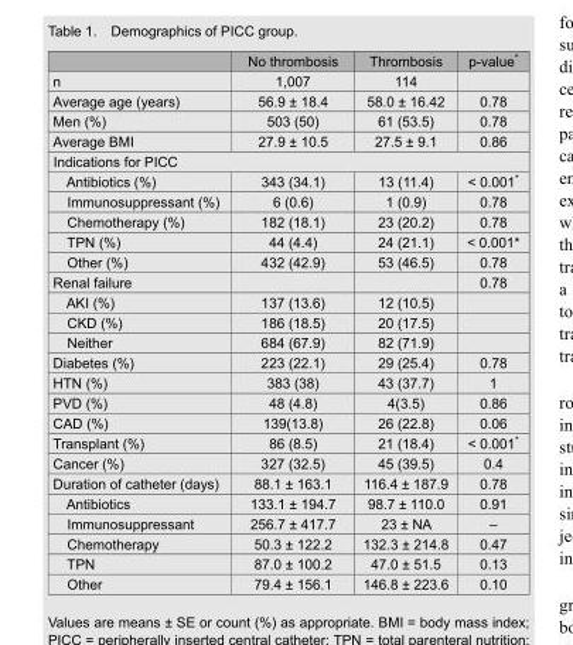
<table><thead><tr><td></td><td>No thrombosis</td><td>Thrombosis</td><td>p-value*</td></tr></thead><tbody><tr><td>n</td><td>1,007</td><td>114</td><td></td></tr><tr><td>Average age (years)</td><td>56.9 ± 18.4</td><td>58.0 ± 16.42</td><td>0.78</td></tr><tr><td>Men (%)</td><td>503 (50)</td><td>61 (53.5)</td><td>0.78</td></tr><tr><td>Average BMI</td><td>27.9 ± 10.5</td><td>27.5 ± 9.1</td><td>0.86</td></tr><tr><td colspan="4">Indications for PICC</td></tr><tr><td>Antibiotics (%)</td><td>343 (34.1)</td><td>13 (11.4)</td><td>&lt; 0.001*</td></tr><tr><td>Immunosuppressant (%)</td><td>6 (0.6)</td><td>1 (0.9)</td><td>0.78</td></tr><tr><td>Chemotherapy (%)</td><td>182 (18.1)</td><td>23 (20.2)</td><td>0.78</td></tr><tr><td>TPN (%)</td><td>44 (4.4)</td><td>24 (21.1)</td><td>&lt; 0.001*</td></tr><tr><td>Other (%)</td><td>432 (42.9)</td><td>53 (46.5)</td><td>0.78</td></tr><tr><td>Renal failure</td><td></td><td></td><td>0.78</td></tr><tr><td>AKI (%)</td><td>137 (13.6)</td><td>12 (10.5)</td><td></td></tr><tr><td>CKD (%)</td><td>186 (18.5)</td><td>20 (17.5)</td><td></td></tr><tr><td>Neither</td><td>684 (67.9)</td><td>82 (71.9)</td><td></td></tr><tr><td>Diabetes (%)</td><td>223 (22.1)</td><td>29 (25.4)</td><td>0.78</td></tr><tr><td>HTN (%)</td><td>383 (38)</td><td>43 (37.7)</td><td>1</td></tr><tr><td>PVD (%)</td><td>48 (4.8)</td><td>4(3.5)</td><td>0.86</td></tr><tr><td>CAD (%)</td><td>139(13.8)</td><td>26 (22.8)</td><td>0.06</td></tr><tr><td>Transplant (%)</td><td>86 (8.5)</td><td>21 (18.4)</td><td>&lt; 0.001*</td></tr><tr><td>Cancer (%)</td><td>327 (32.5)</td><td>45 (39.5)</td><td>0.4</td></tr><tr><td>Duration of catheter (days)</td><td>88.1 ± 163.1</td><td>116.4 ± 187.9</td><td>0.78</td></tr><tr><td>Antibiotics</td><td>133.1 ± 194.7</td><td>98.7 ± 110.0</td><td>0.91</td></tr><tr><td>Immunosuppressant</td><td>256.7 ± 417.7</td><td>23 ± NA</td><td>–</td></tr><tr><td>Chemotherapy</td><td>50.3 ± 122.2</td><td>132.3 ± 214.8</td><td>0.47</td></tr><tr><td>TPN</td><td>87.0 ± 100.2</td><td>47.0 ± 51.5</td><td>0.13</td></tr><tr><td>Other</td><td>79.4 ± 156.1</td><td>146.8 ± 223.6</td><td>0.10</td></tr></tbody></table>